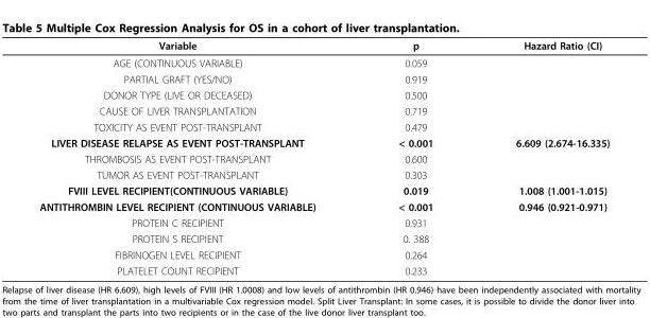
<table><thead><tr><td>Variable</td><td>p</td><td>Hazard Ratio (CI)</td></tr></thead><tbody><tr><td>AGE (CONTINUOUS VARIABLE)</td><td>0.059</td><td></td></tr><tr><td>PARTIAL GRAFT (YES/NO)</td><td>0.919</td><td></td></tr><tr><td>DONOR TYPE (LIVE OR DECEASED)</td><td>0.500</td><td></td></tr><tr><td>CAUSE OF LIVER TRANSPLANTATION</td><td>0.719</td><td></td></tr><tr><td>TOXICITY AS EVENT POST-TRANSPLANT</td><td>0.479</td><td></td></tr><tr><td>LIVER DISEASE RELAPSE AS EVENT POST-TRANSPLANT</td><td>&lt; 0.001</td><td>6.609 (2.674-16.335)</td></tr><tr><td>THROMBOSIS AS EVENT POST-TRANSPLANT</td><td>0.600</td><td></td></tr><tr><td>TUMOR AS EVENT POST-TRANSPLANT</td><td>0.303</td><td></td></tr><tr><td>FVIII LEVEL RECIPIENT(CONTINUOUS VARIABLE)</td><td>0.019</td><td>1.008 (1.001-1.015)</td></tr><tr><td>ANTITHROMBIN LEVEL RECIPIENT (CONTINUOUS VARIABLE)</td><td>&lt; 0.001</td><td>0.946 (0.921-0.971)</td></tr><tr><td>PROTEIN C RECIPIENT</td><td>0.931</td><td></td></tr><tr><td>PROTEIN S RECIPIENT</td><td>0. 388</td><td></td></tr><tr><td>FIBRINOGEN LEVEL RECIPIENT</td><td>0.264</td><td></td></tr><tr><td>PLATELET COUNT RECIPIENT</td><td>0.233</td><td></td></tr></tbody></table>